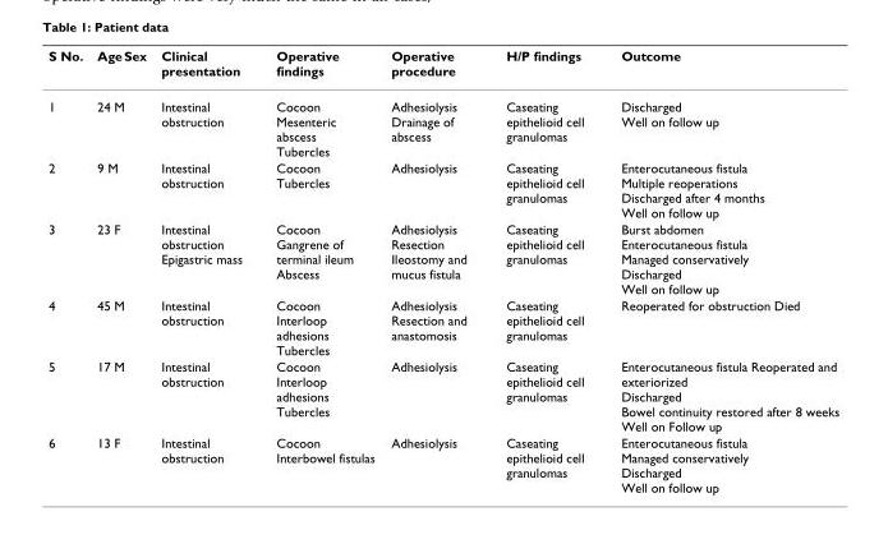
<table><thead><tr><td>S No.</td><td>Age Sex</td><td>Clinical presentation</td><td>Operative findings</td><td>Operative procedure</td><td>H/P findings</td><td>Outcome</td></tr></thead><tbody><tr><td>1</td><td>24 M</td><td>Intestinal obstruction</td><td>Cocoon Mesenteric abscess Tubercles</td><td>Adhesiolysis Drainage of abscess</td><td>Caseating epithelioid cell granulomas</td><td>Discharged Well on follow up</td></tr><tr><td>2</td><td>9 M</td><td>Intestinal obstruction</td><td>Cocoon Tubercles</td><td>Adhesiolysis</td><td>Caseating epithelioid cell granulomas</td><td>Enterocutaneous fistula Multiple reoperations Discharged after 4 months Well on follow up</td></tr><tr><td>3</td><td>23 F</td><td>Intestinal obstruction Epigastric mass</td><td>Cocoon Gangrene of terminal ileum Abscess</td><td>Adhesiolysis Resection Ileostomy and mucus fistula</td><td>Caseating epithelioid cell granulomas</td><td>Burst abdomen Enterocutaneous fistula Managed conservatively Discharged Well on follow up</td></tr><tr><td>4</td><td>45 M</td><td>Intestinal obstruction</td><td>Cocoon Interloop adhesions Tubercles</td><td>Adhesiolysis Resection and anastomosis</td><td>Caseating epithelioid cell granulomas</td><td>Reoperated for obstruction Died</td></tr><tr><td>5</td><td>17 M</td><td>Intestinal obstruction</td><td>Cocoon Interloop adhesions Tubercles</td><td>Adhesiolysis</td><td>Caseating epithelioid cell granulomas</td><td>Enterocutaneous fistula Reoperated and exteriorized Discharged Bowel continuity restored after 8 weeks Well on Follow up</td></tr><tr><td>6</td><td>13 F</td><td>Intestinal obstruction</td><td>Cocoon Interbowel fistulas</td><td>Adhesiolysis</td><td>Caseating epithelioid cell granulomas</td><td>Enterocutaneous fistula Managed conservatively Discharged Well on follow up</td></tr></tbody></table>